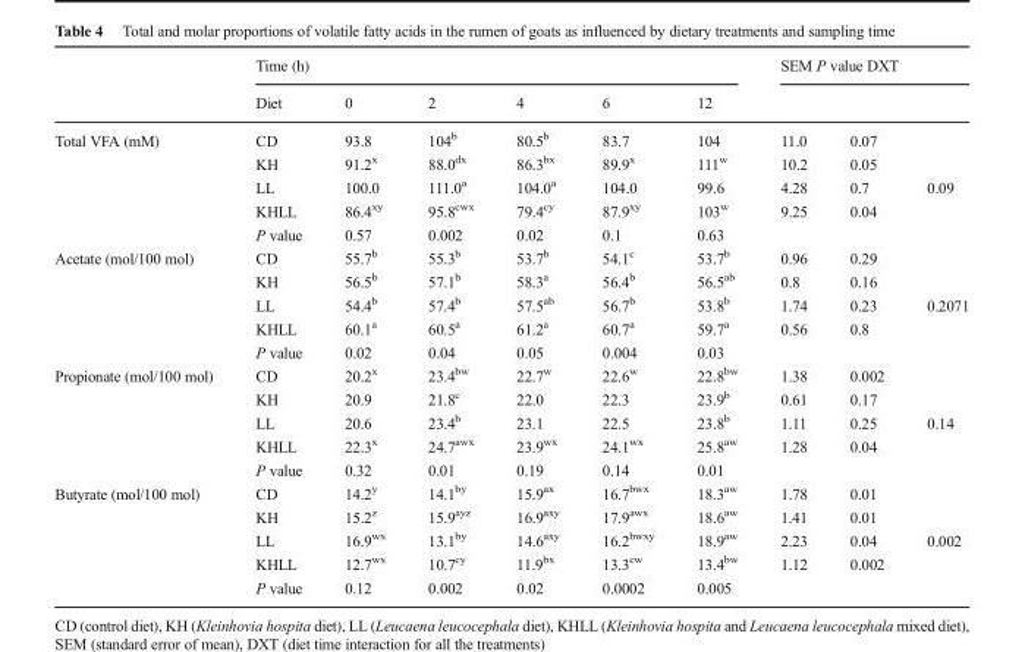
<table><thead><tr><td rowspan="2"></td><td colspan="6">Time (h)</td><td colspan="3">SEM P value DXT</td></tr><tr><td>Diet</td><td>0</td><td>2</td><td>4</td><td>6</td><td>12</td><td></td><td></td><td></td></tr></thead><tbody><tr><td rowspan="5">Total VFA (mM)</td><td>CD</td><td>93.8</td><td>104<sup>b</sup></td><td>80.5<sup>b</sup></td><td>83.7</td><td>104</td><td>11.0</td><td>0.07</td><td></td></tr><tr><td>KH</td><td>91.2<sup>x</sup></td><td>88.0<sup>dx</sup></td><td>86.3<sup>bx</sup></td><td>89.9<sup>x</sup></td><td>111<sup>w</sup></td><td>10.2</td><td>0.05</td><td></td></tr><tr><td>LL</td><td>100.0</td><td>111.0<sup>a</sup></td><td>104.0<sup>a</sup></td><td>104.0</td><td>99.6</td><td>4.28</td><td>0.7</td><td>0.09</td></tr><tr><td>KHLL</td><td>86.4<sup>xy</sup></td><td>95.8<sup>cwx</sup></td><td>79.4<sup>cy</sup></td><td>87.9<sup>xy</sup></td><td>103<sup>w</sup></td><td>9.25</td><td>0.04</td><td></td></tr><tr><td>P value</td><td>0.57</td><td>0.002</td><td>0.02</td><td>0.1</td><td>0.63</td><td></td><td></td><td></td></tr><tr><td rowspan="5">Acetate (mol/100 mol)</td><td>CD</td><td>55.7<sup>b</sup></td><td>55.3<sup>b</sup></td><td>53.7<sup>b</sup></td><td>54.1<sup>c</sup></td><td>53.7<sup>b</sup></td><td>0.96</td><td>0.29</td><td></td></tr><tr><td>KH</td><td>56.5<sup>b</sup></td><td>57.1<sup>b</sup></td><td>58.3<sup>a</sup></td><td>56.4<sup>b</sup></td><td>56.5<sup>ab</sup></td><td>0.8</td><td>0.16</td><td></td></tr><tr><td>LL</td><td>54.4<sup>b</sup></td><td>57.4<sup>b</sup></td><td>57.5<sup>ab</sup></td><td>56.7<sup>b</sup></td><td>53.8<sup>b</sup></td><td>1.74</td><td>0.23</td><td>0.2071</td></tr><tr><td>KHLL</td><td>60.1<sup>a</sup></td><td>60.5<sup>a</sup></td><td>61.2<sup>a</sup></td><td>60.7<sup>a</sup></td><td>59.7<sup>a</sup></td><td>0.56</td><td>0.8</td><td></td></tr><tr><td>P value</td><td>0.02</td><td>0.04</td><td>0.05</td><td>0.004</td><td>0.03</td><td></td><td></td><td></td></tr><tr><td rowspan="5">Propionate (mol/100 mol)</td><td>CD</td><td>20.2<sup>x</sup></td><td>23.4<sup>bw</sup></td><td>22.7<sup>w</sup></td><td>22.6<sup>w</sup></td><td>22.8<sup>bw</sup></td><td>1.38</td><td>0.002</td><td></td></tr><tr><td>KH</td><td>20.9</td><td>21.8<sup>c</sup></td><td>22.0</td><td>22.3</td><td>23.9<sup>b</sup></td><td>0.61</td><td>0.17</td><td></td></tr><tr><td>LL</td><td>20.6</td><td>23.4<sup>b</sup></td><td>23.1</td><td>22.5</td><td>23.8<sup>b</sup></td><td>1.11</td><td>0.25</td><td>0.14</td></tr><tr><td>KHLL</td><td>22.3<sup>x</sup></td><td>24.7<sup>awx</sup></td><td>23.9<sup>wx</sup></td><td>24.1<sup>wx</sup></td><td>25.8<sup>aw</sup></td><td>1.28</td><td>0.04</td><td></td></tr><tr><td>P value</td><td>0.32</td><td>0.01</td><td>0.19</td><td>0.14</td><td>0.01</td><td></td><td></td><td></td></tr><tr><td rowspan="5">Butyrate (mol/100 mol)</td><td>CD</td><td>14.2<sup>y</sup></td><td>14.1<sup>by</sup></td><td>15.9<sup>ax</sup></td><td>16.7<sup>bwx</sup></td><td>18.3<sup>aw</sup></td><td>1.78</td><td>0.01</td><td></td></tr><tr><td>KH</td><td>15.2<sup>z</sup></td><td>15.9<sup>ayz</sup></td><td>16.9<sup>axy</sup></td><td>17.9<sup>awx</sup></td><td>18.6<sup>aw</sup></td><td>1.41</td><td>0.01</td><td></td></tr><tr><td>LL</td><td>16.9<sup>wx</sup></td><td>13.1<sup>by</sup></td><td>14.6<sup>axy</sup></td><td>16.2<sup>bwxy</sup></td><td>18.9<sup>aw</sup></td><td>2.23</td><td>0.04</td><td>0.002</td></tr><tr><td>KHLL</td><td>12.7<sup>wx</sup></td><td>10.7<sup>cy</sup></td><td>11.9<sup>bx</sup></td><td>13.3<sup>cw</sup></td><td>13.4<sup>bw</sup></td><td>1.12</td><td>0.002</td><td></td></tr><tr><td>P value</td><td>0.12</td><td>0.002</td><td>0.02</td><td>0.0002</td><td>0.005</td><td></td><td></td><td></td></tr></tbody></table>